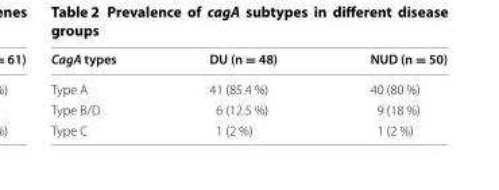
<table><thead><tr><td>CagA types</td><td>DU (n = 48)</td><td>NUD (n = 50)</td></tr></thead><tbody><tr><td>Type A</td><td>41 (85.4 %)</td><td>40 (80 %)</td></tr><tr><td>Type B/D</td><td>6 (12.5 %)</td><td>9 (18 %)</td></tr><tr><td>Type C</td><td>1 (2 %)</td><td>1 (2 %)</td></tr></tbody></table>